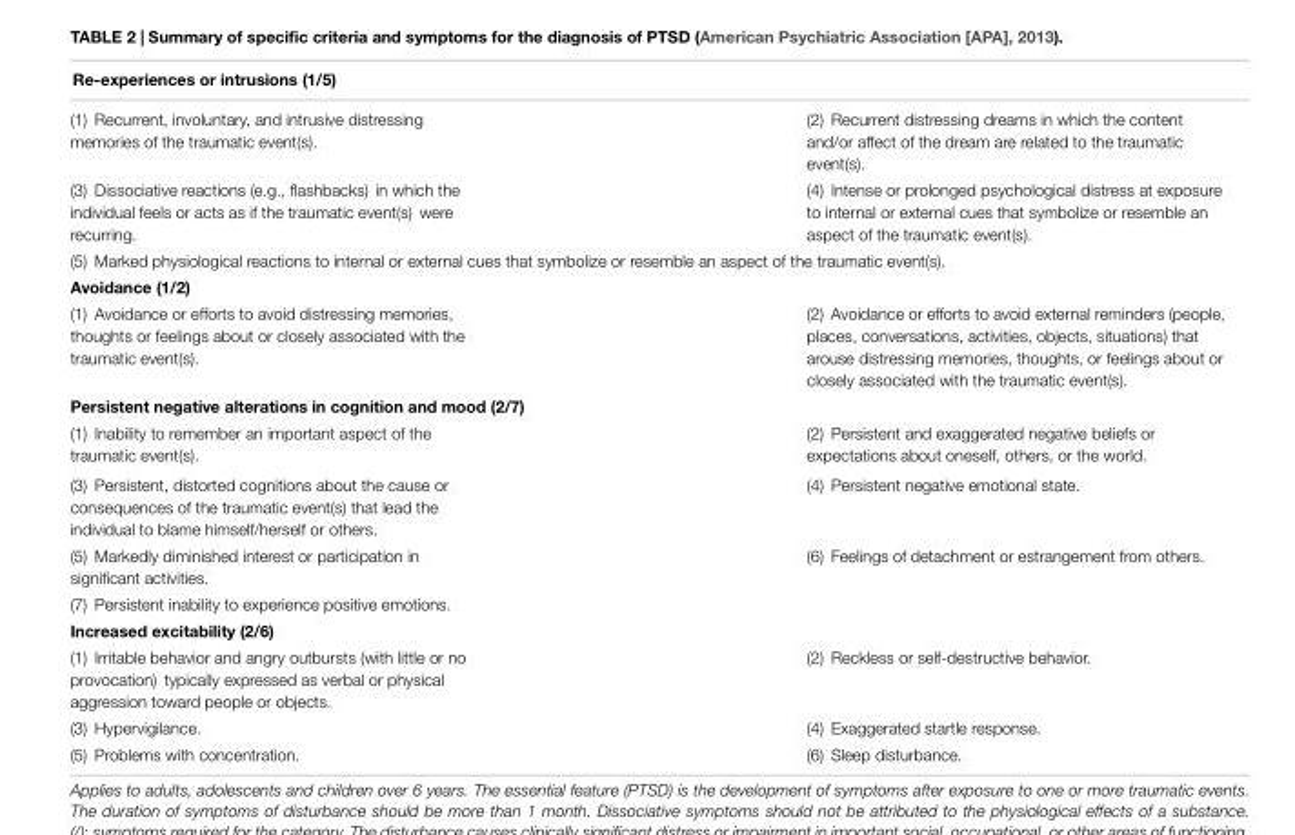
<table><thead><tr><td colspan="2">Re-experiences or intrusions (1/5)</td></tr><tr><td>(1) Recurrent, involuntary, and intrusive distressing memories of the traumatic event(s).</td><td>(2) Recurrent distressing dreams in which the content and/or affect of the dream are related to the traumatic event(s).</td></tr></thead><tbody><tr><td>(3) Dissociative reactions (e.g., flashbacks) in which the individual feels or acts as if the traumatic event(s) were recurring.</td><td>(4) Intense or prolonged psychological distress at exposure to internal or external cues that symbolize or resemble an aspect of the traumatic event(s).</td></tr><tr><td colspan="2">(5) Marked physiological reactions to internal or external cues that symbolize or resemble an aspect of the traumatic event(s).</td></tr><tr><td colspan="2">Avoidance (1/2)</td></tr><tr><td>(1) Avoidance or efforts to avoid distressing memories, thoughts or feelings about or closely associated with the traumatic event(s).</td><td>(2) Avoidance or efforts to avoid external reminders (people, places, conversations, activities, objects, situations) that arouse distressing memories, thoughts, or feelings about or closely associated with the traumatic event(s).</td></tr><tr><td colspan="2">Persistent negative alterations in cognition and mood (2/7)</td></tr><tr><td>(1) Inability to remember an important aspect of the traumatic event(s).</td><td>(2) Persistent and exaggerated negative beliefs or expectations about oneself, others, or the world.</td></tr><tr><td>(3) Persistent, distorted cognitions about the cause or consequences of the traumatic event(s) that lead the individual to blame himself/herself or others.</td><td>(4) Persistent negative emotional state.</td></tr><tr><td>(5) Markedly diminished interest or participation in significant activities.</td><td>(6) Feelings of detachment or estrangement from others.</td></tr><tr><td colspan="2">(7) Persistent inability to experience positive emotions.</td></tr><tr><td colspan="2">Increased excitability (2/6)</td></tr><tr><td>(1) Irritable behavior and angry outbursts (with little or no provocation) typically expressed as verbal or physical aggression toward people or objects.</td><td>(2) Reckless or self-destructive behavior.</td></tr><tr><td>(3) Hypervigilance.</td><td>(4) Exaggerated startle response.</td></tr><tr><td>(5) Problems with concentration.</td><td>(6) Sleep disturbance.</td></tr></tbody></table>